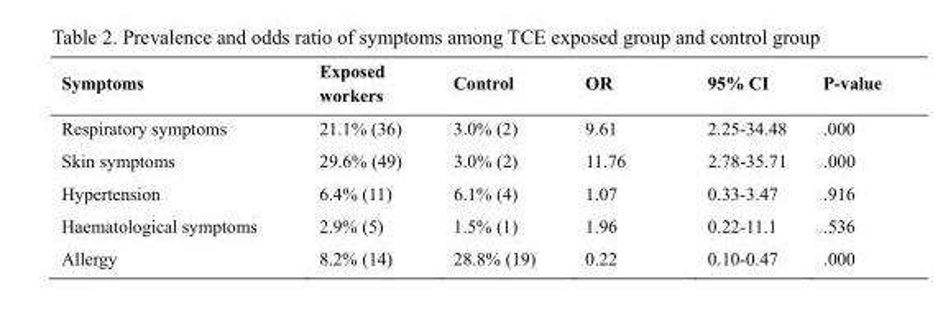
<table><thead><tr><td>Symptoms</td><td>Exposed workers</td><td>Control</td><td>OR</td><td>95% CI</td><td>P-value</td></tr></thead><tbody><tr><td>Respiratory symptoms</td><td>21.1% (36)</td><td>3.0% (2)</td><td>9.61</td><td>2.25-34.48</td><td>.000</td></tr><tr><td>Skin symptoms</td><td>29.6% (49)</td><td>3.0% (2)</td><td>11.76</td><td>2.78-35.71</td><td>.000</td></tr><tr><td>Hypertension</td><td>6.4% (11)</td><td>6.1% (4)</td><td>1.07</td><td>0.33-3.47</td><td>.916</td></tr><tr><td>Haematological symptoms</td><td>2.9% (5)</td><td>1.5% (1)</td><td>1.96</td><td>0.22-11.1</td><td>.536</td></tr><tr><td>Allergy</td><td>8.2% (14)</td><td>28.8% (19)</td><td>0.22</td><td>0.10-0.47</td><td>.000</td></tr></tbody></table>